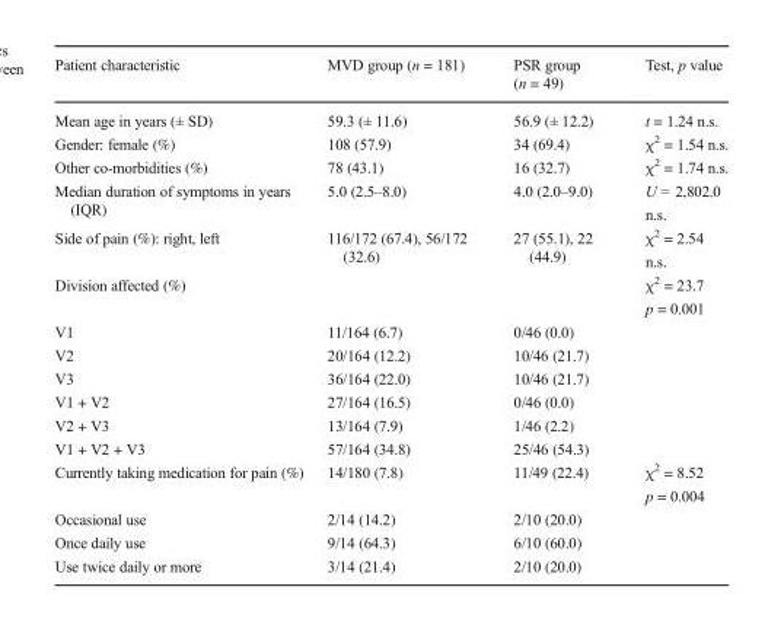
<table><thead><tr><td>Patient characteristic</td><td>MVD group (n = 181)</td><td>PSR group (n = 49)</td><td>Test, p value</td></tr></thead><tbody><tr><td>Mean age in years (± SD)</td><td>59.3 (± 11.6)</td><td>56.9 (± 12.2)</td><td>t = 1.24 n.s.</td></tr><tr><td>Gender: female (%)</td><td>108 (57.9)</td><td>34 (69.4)</td><td>χ<sup>2</sup> = 1.54 n.s.</td></tr><tr><td>Other co-morbidities (%)</td><td>78 (43.1)</td><td>16 (32.7)</td><td>χ<sup>2</sup> = 1.74 n.s.</td></tr><tr><td>Median duration of symptoms in years (IQR)</td><td>5.0 (2.5–8.0)</td><td>4.0 (2.0–9.0)</td><td>U = 2,802.0 n.s.</td></tr><tr><td>Side of pain (%): right, left</td><td>116/172 (67.4), 56/172 (32.6)</td><td>27 (55.1), 22 (44.9)</td><td>χ<sup>2</sup> = 2.54 n.s.</td></tr><tr><td>Division affected (%)</td><td></td><td></td><td>χ<sup>2</sup> = 23.7 p = 0.001</td></tr><tr><td>V1</td><td>11/164 (6.7)</td><td>0/46 (0.0)</td><td></td></tr><tr><td>V2</td><td>20/164 (12.2)</td><td>10/46 (21.7)</td><td></td></tr><tr><td>V3</td><td>36/164 (22.0)</td><td>10/46 (21.7)</td><td></td></tr><tr><td>V1 + V2</td><td>27/164 (16.5)</td><td>0/46 (0.0)</td><td></td></tr><tr><td>V2 + V3</td><td>13/164 (7.9)</td><td>1/46 (2.2)</td><td></td></tr><tr><td>V1 + V2 + V3</td><td>57/164 (34.8)</td><td>25/46 (54.3)</td><td></td></tr><tr><td>Currently taking medication for pain (%)</td><td>14/180 (7.8)</td><td>11/49 (22.4)</td><td>χ<sup>2</sup> = 8.52 p = 0.004</td></tr><tr><td>Occasional use</td><td>2/14 (14.2)</td><td>2/10 (20.0)</td><td></td></tr><tr><td>Once daily use</td><td>9/14 (64.3)</td><td>6/10 (60.0)</td><td></td></tr><tr><td>Use twice daily or more</td><td>3/14 (21.4)</td><td>2/10 (20.0)</td><td></td></tr></tbody></table>